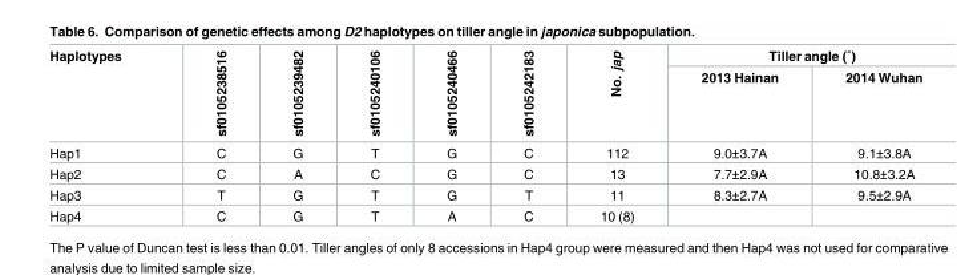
<table><thead><tr><td rowspan="2">Haplotypes</td><td rowspan="2">sf0105238516</td><td rowspan="2">sf0105239482</td><td rowspan="2">sf0105240106</td><td rowspan="2">sf0105240466</td><td rowspan="2">sf0105242183</td><td rowspan="2">No. jap</td><td colspan="2">Tiller angle (˚)</td></tr><tr><td>2013 Hainan</td><td>2014 Wuhan</td></tr></thead><tbody><tr><td>Hap1</td><td>C</td><td>G</td><td>T</td><td>G</td><td>C</td><td>112</td><td>9.0±3.7A</td><td>9.1±3.8A</td></tr><tr><td>Hap2</td><td>C</td><td>A</td><td>C</td><td>G</td><td>C</td><td>13</td><td>7.7±2.9A</td><td>10.8±3.2A</td></tr><tr><td>Hap3</td><td>T</td><td>G</td><td>T</td><td>G</td><td>T</td><td>11</td><td>8.3±2.7A</td><td>9.5±2.9A</td></tr><tr><td>Hap4</td><td>C</td><td>G</td><td>T</td><td>A</td><td>C</td><td>10 (8)</td><td></td><td></td></tr></tbody></table>